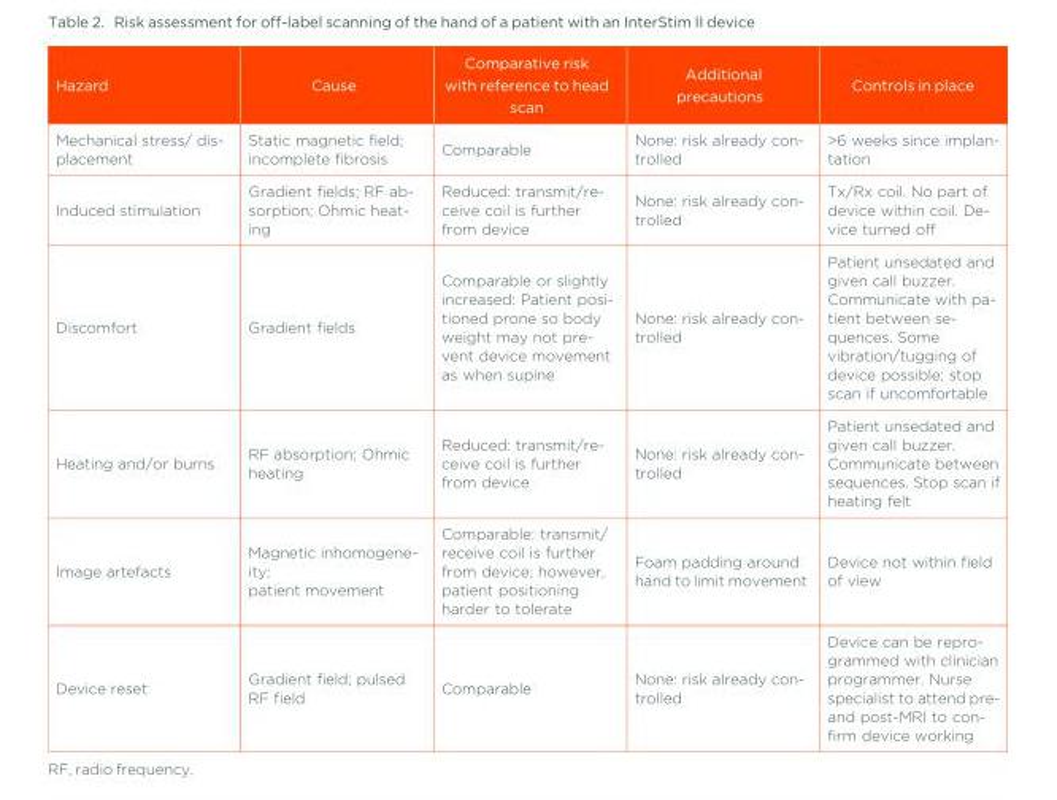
<table><thead><tr><td>Hazard</td><td>Cause</td><td>Comparative risk with reference to head scan</td><td>Additional precautions</td><td>Controls in place</td></tr></thead><tbody><tr><td>Mechanical stress/ dis- placement</td><td>Static magnetic field; incomplete fibrosis</td><td>Comparable</td><td>None: risk already con- trolled</td><td>&gt;6 weeks since implan- tation</td></tr><tr><td>Induced stimulation</td><td>Gradient fields; RF ab- sorption; Ohmic heat- ing</td><td>Reduced: transmit/re- ceive coil is further from device</td><td>None: risk already con- trolled</td><td>Tx/Rx coil. No part of device within coil. De- vice turned off</td></tr><tr><td>Discomfort</td><td>Gradient fields</td><td>Comparable or slightly increased: Patient posi- tioned prone so body weight may not pre- vent device movement as when supine</td><td>None: risk already con- trolled</td><td>Patient unsedated and given call buzzer. Communicate with pa- tient between se- quences. Some vibration/tugging of device possible; stop scan if uncomfortable</td></tr><tr><td>Heating and/or burns</td><td>RF absorption; Ohmic heating</td><td>Reduced: transmit/re- ceive coil is further from device</td><td>None: risk already con- trolled</td><td>Patient unsedated and given call buzzer. Communicate between sequences. Stop scan if heating felt</td></tr><tr><td>Image artefacts</td><td>Magnetic inhomogene- ity; patient movement</td><td>Comparable: transmit/ receive coil is further from device; however, patient positioning harder to tolerate</td><td>Foam padding around hand to limit movement</td><td>Device not within field of view</td></tr><tr><td>Device reset</td><td>Gradient field; pulsed RF field</td><td>Comparable</td><td>None: risk already con- trolled</td><td>Device can be repro- grammed with clinician programmer. Nurse specialist to attend pre- and post-MRI to con- firm device working</td></tr></tbody></table>